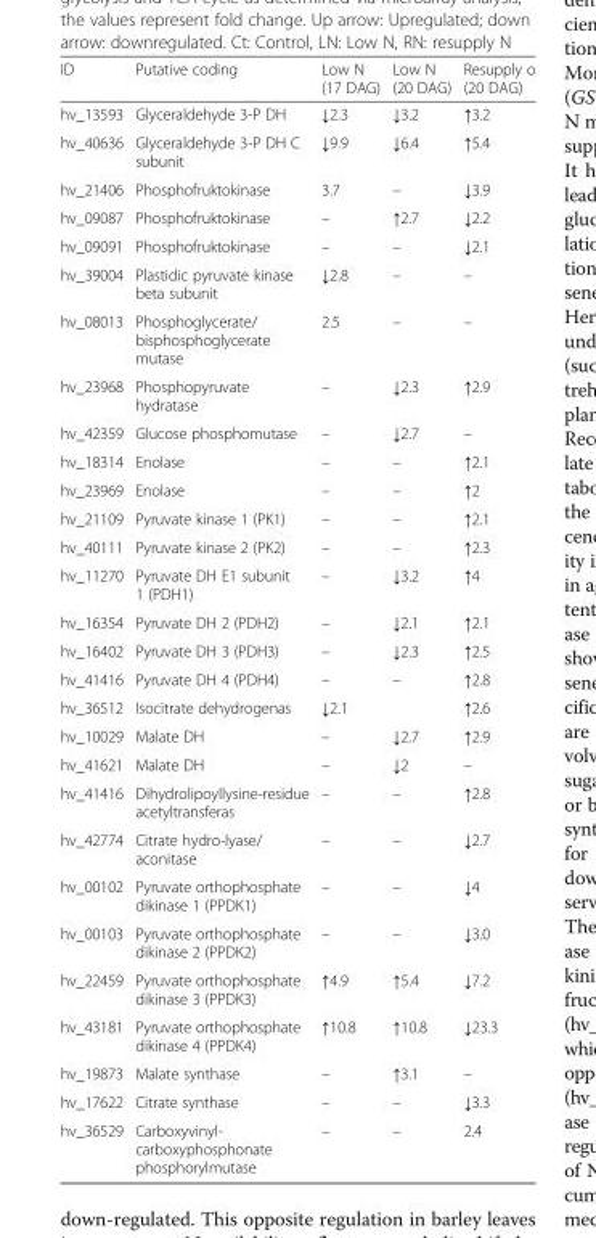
<table><thead><tr><td>ID</td><td>Putative coding</td><td>Low N (17 DAG)</td><td>Low N (20 DAG)</td><td>Resupply o (20 DAG)</td></tr></thead><tbody><tr><td>hv_13593</td><td>Glyceraldehyde 3-P DH</td><td>↓2.3</td><td>↓3.2</td><td>↑3.2</td></tr><tr><td>hv_40636</td><td>Glyceraldehyde 3-P DH C subunit</td><td>↓9.9</td><td>↓6.4</td><td>↑5.4</td></tr><tr><td>hv_21406</td><td>Phosphofruktokinase</td><td>3.7</td><td>–</td><td>↓3.9</td></tr><tr><td>hv_09087</td><td>Phosphofruktokinase</td><td>–</td><td>↑2.7</td><td>↓2.2</td></tr><tr><td>hv_09091</td><td>Phosphofruktokinase</td><td>–</td><td>–</td><td>↓2.1</td></tr><tr><td>hv_39004</td><td>Plastidic pyruvate kinase beta subunit</td><td>↓2.8</td><td>–</td><td>–</td></tr><tr><td>hv_08013</td><td>Phosphoglycerate/ bisphosphoglycerate mutase</td><td>2.5</td><td>–</td><td>–</td></tr><tr><td>hv_23968</td><td>Phosphopyruvate hydratase</td><td>–</td><td>↓2.3</td><td>↑2.9</td></tr><tr><td>hv_42359</td><td>Glucose phosphomutase</td><td>–</td><td>↓2.7</td><td>–</td></tr><tr><td>hv_18314</td><td>Enolase</td><td>–</td><td>–</td><td>↑2.1</td></tr><tr><td>hv_23969</td><td>Enolase</td><td>–</td><td>–</td><td>↑2</td></tr><tr><td>hv_21109</td><td>Pyruvate kinase 1 (PK1)</td><td>–</td><td>–</td><td>↑2.1</td></tr><tr><td>hv_40111</td><td>Pyruvate kinase 2 (PK2)</td><td>–</td><td>–</td><td>↑2.3</td></tr><tr><td>hv_11270</td><td>Pyruvate DH E1 subunit 1 (PDH1)</td><td>–</td><td>↓3.2</td><td>↑4</td></tr><tr><td>hv_16354</td><td>Pyruvate DH 2 (PDH2)</td><td>–</td><td>↓2.1</td><td>↑2.1</td></tr><tr><td>hv_16402</td><td>Pyruvate DH 3 (PDH3)</td><td>–</td><td>↓2.3</td><td>↑2.5</td></tr><tr><td>hv_41416</td><td>Pyruvate DH 4 (PDH4)</td><td>–</td><td>–</td><td>↑2.8</td></tr><tr><td>hv_36512</td><td>Isocitrate dehydrogenas</td><td>↓2.1</td><td></td><td>↑2.6</td></tr><tr><td>hv_10029</td><td>Malate DH</td><td>–</td><td>↓2.7</td><td>↑2.9</td></tr><tr><td>hv_41621</td><td>Malate DH</td><td>–</td><td>↓2</td><td>–</td></tr><tr><td>hv_41416</td><td>Dihydrolipoyllysine-residue acetyltransferas</td><td>–</td><td>–</td><td>↑2.8</td></tr><tr><td>hv_42774</td><td>Citrate hydro-lyase/ aconitase</td><td>–</td><td>–</td><td>↓2.7</td></tr><tr><td>hv_00102</td><td>Pyruvate orthophosphate dikinase 1 (PPDK1)</td><td>–</td><td>–</td><td>↓4</td></tr><tr><td>hv_00103</td><td>Pyruvate orthophosphate dikinase 2 (PPDK2)</td><td>–</td><td>–</td><td>↓3.0</td></tr><tr><td>hv_22459</td><td>Pyruvate orthophosphate dikinase 3 (PPDK3)</td><td>↑4.9</td><td>↑5.4</td><td>↓7.2</td></tr><tr><td>hv_43181</td><td>Pyruvate orthophosphate dikinase 4 (PPDK4)</td><td>↑10.8</td><td>↑10.8</td><td>↓23.3</td></tr><tr><td>hv_19873</td><td>Malate synthase</td><td>–</td><td>↑3.1</td><td>–</td></tr><tr><td>hv_17622</td><td>Citrate synthase</td><td>–</td><td>–</td><td>↓3.3</td></tr><tr><td>hv_36529</td><td>Carboxyvinyl- carboxyphosphonate phosphorylmutase</td><td>–</td><td>–</td><td>2.4</td></tr></tbody></table>